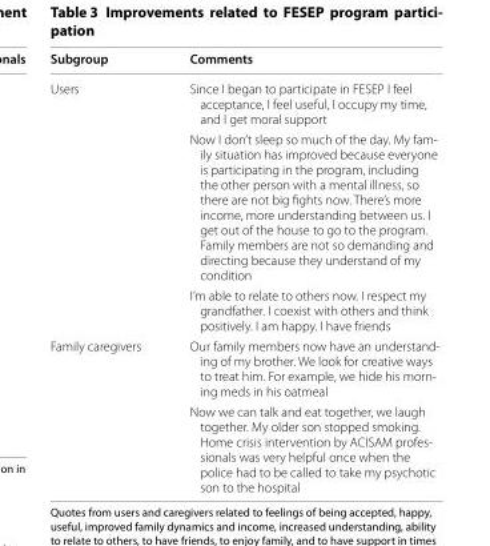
<table><thead><tr><td>Subgroup</td><td>Comments</td></tr></thead><tbody><tr><td rowspan="3">Users</td><td>Since I began to participate in FESEP I feel acceptance, I feel useful, I occupy my time, and I get moral support</td></tr><tr><td>Now I don’t sleep so much of the day. My fam- ily situation has improved because everyone is participating in the program, including the other person with a mental illness, so there are not big fights now. There’s more income, more understanding between us. I get out of the house to go to the program. Family members are not so demanding and directing because they understand of my condition</td></tr><tr><td>I’m able to relate to others now. I respect my grandfather. I coexist with others and think positively. I am happy. I have friends</td></tr><tr><td rowspan="2">Family caregivers</td><td>Our family members now have an understand- ing of my brother. We look for creative ways to treat him. For example, we hide his morn- ing meds in his oatmeal</td></tr><tr><td>Now we can talk and eat together, we laugh together. My older son stopped smoking. Home crisis intervention by ACISAM profes- sionals was very helpful once when the police had to be called to take my psychotic son to the hospital</td></tr></tbody></table>